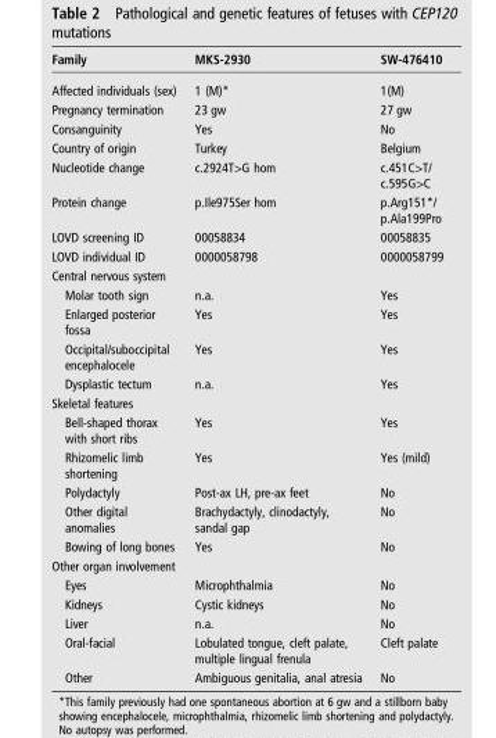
<table><thead><tr><td>Family</td><td>MKS-2930</td><td>SW-476410</td></tr></thead><tbody><tr><td>Affected individuals (sex)</td><td>1 (M)*</td><td>1(M)</td></tr><tr><td>Pregnancy termination</td><td>23 gw</td><td>27 gw</td></tr><tr><td>Consanguinity</td><td>Yes</td><td>No</td></tr><tr><td>Country of origin</td><td>Turkey</td><td>Belgium</td></tr><tr><td>Nucleotide change</td><td>c.2924T&gt;G hom</td><td>c.451C&gt;T/ c.595G&gt;C</td></tr><tr><td>Protein change</td><td>p.Ile975Ser hom</td><td>p.Arg151*/ p.Ala199Pro</td></tr><tr><td>LOVD screening ID</td><td>00058834</td><td>00058835</td></tr><tr><td>LOVD individual ID</td><td>0000058798</td><td>0000058799</td></tr><tr><td colspan="3">Central nervous system</td></tr><tr><td>Molar tooth sign</td><td>n.a.</td><td>Yes</td></tr><tr><td>Enlarged posterior fossa</td><td>Yes</td><td>Yes</td></tr><tr><td>Occipital/suboccipital encephalocele</td><td>Yes</td><td>Yes</td></tr><tr><td>Dysplastic tectum</td><td>n.a.</td><td>Yes</td></tr><tr><td colspan="3">Skeletal features</td></tr><tr><td>Bell-shaped thorax with short ribs</td><td>Yes</td><td>Yes</td></tr><tr><td>Rhizomelic limb shortening</td><td>Yes</td><td>Yes (mild)</td></tr><tr><td>Polydactyly</td><td>Post-ax LH, pre-ax feet</td><td>No</td></tr><tr><td>Other digital anomalies</td><td>Brachydactyly, clinodactyly, sandal gap</td><td>No</td></tr><tr><td>Bowing of long bones</td><td>Yes</td><td>No</td></tr><tr><td colspan="3">Other organ involvement</td></tr><tr><td>Eyes</td><td>Microphthalmia</td><td>No</td></tr><tr><td>Kidneys</td><td>Cystic kidneys</td><td>No</td></tr><tr><td>Liver</td><td>n.a.</td><td>No</td></tr><tr><td>Oral-facial</td><td>Lobulated tongue, cleft palate, multiple lingual frenula</td><td>Cleft palate</td></tr><tr><td>Other</td><td>Ambiguous genitalia, anal atresia</td><td>No</td></tr></tbody></table>